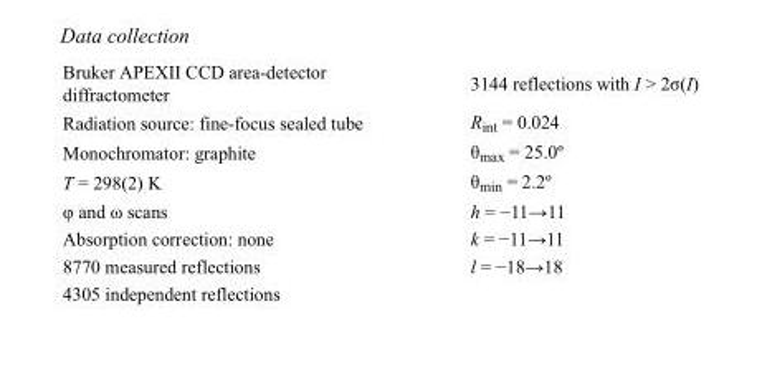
<table><tbody><tr><td>Bruker APEXII CCD area-detector diffractometer</td><td>3144 reflections with I &gt; 2σ(I)</td></tr><tr><td>Radiation source: fine-focus sealed tube</td><td>R<sub>int</sub> = 0.024</td></tr><tr><td>Monochromator: graphite</td><td>θ<sub>max</sub> = 25.0º</td></tr><tr><td>T = 298(2) K</td><td>θ<sub>min</sub> = 2.2º</td></tr><tr><td>φ and ω scans</td><td>h = −11→11</td></tr><tr><td>Absorption correction: none</td><td>k = −11→11</td></tr><tr><td>8770 measured reflections</td><td>l = −18→18</td></tr><tr><td>4305 independent reflections</td><td></td></tr></tbody></table>